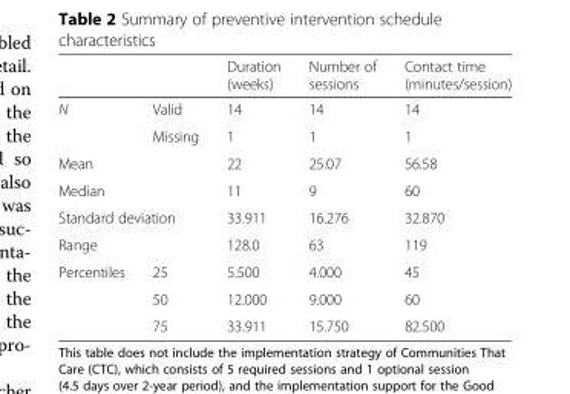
<table><thead><tr><td></td><td></td><td>Duration (weeks)</td><td>Number of sessions</td><td>Contact time (minutes/session)</td></tr></thead><tbody><tr><td rowspan="2">N</td><td>Valid</td><td>14</td><td>14</td><td>14</td></tr><tr><td>Missing</td><td>1</td><td>1</td><td>1</td></tr><tr><td colspan="2">Mean</td><td>22</td><td>25.07</td><td>56.58</td></tr><tr><td colspan="2">Median</td><td>11</td><td>9</td><td>60</td></tr><tr><td colspan="2">Standard deviation</td><td>33.911</td><td>16.276</td><td>32.870</td></tr><tr><td colspan="2">Range</td><td>128.0</td><td>63</td><td>119</td></tr><tr><td rowspan="3">Percentiles</td><td>25</td><td>5.500</td><td>4.000</td><td>45</td></tr><tr><td>50</td><td>12.000</td><td>9.000</td><td>60</td></tr><tr><td>75</td><td>33.911</td><td>15.750</td><td>82.500</td></tr></tbody></table>